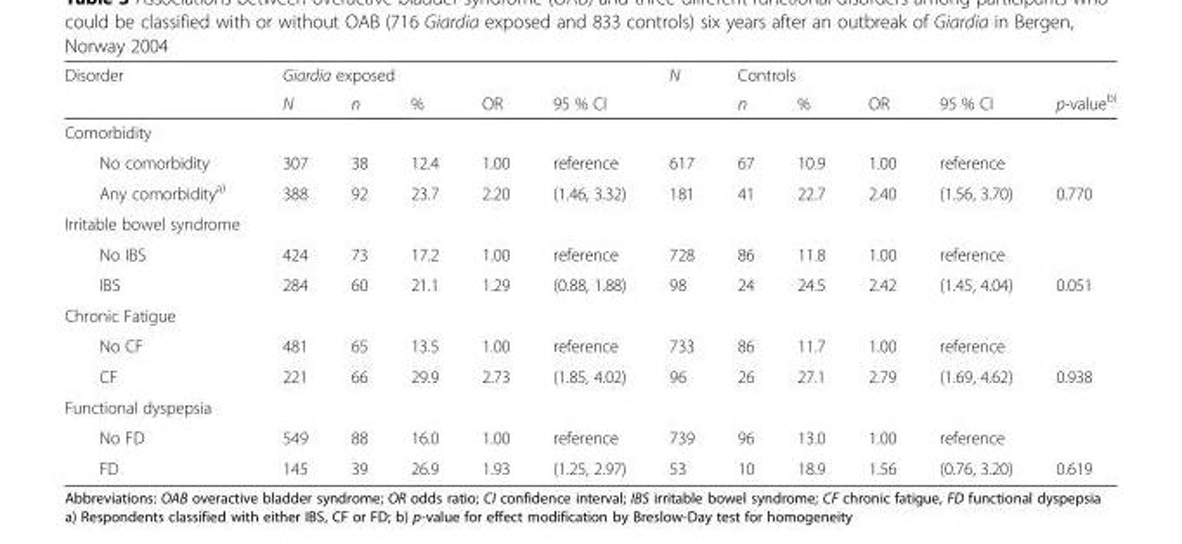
<table><thead><tr><td rowspan="2">Disorder</td><td colspan="5">Giardia exposed</td><td rowspan="2">N</td><td colspan="4">Controls</td><td rowspan="2">p-value<sup>b)</sup></td></tr><tr><td>N</td><td>n</td><td>%</td><td>OR</td><td>95 % CI</td><td>n</td><td>%</td><td>OR</td><td>95 % CI</td></tr></thead><tbody><tr><td colspan="12">Comorbidity</td></tr><tr><td>No comorbidity</td><td>307</td><td>38</td><td>12.4</td><td>1.00</td><td>reference</td><td>617</td><td>67</td><td>10.9</td><td>1.00</td><td>reference</td><td></td></tr><tr><td>Any comorbidity<sup>a)</sup></td><td>388</td><td>92</td><td>23.7</td><td>2.20</td><td>(1.46, 3.32)</td><td>181</td><td>41</td><td>22.7</td><td>2.40</td><td>(1.56, 3.70)</td><td>0.770</td></tr><tr><td colspan="12">Irritable bowel syndrome</td></tr><tr><td>No IBS</td><td>424</td><td>73</td><td>17.2</td><td>1.00</td><td>reference</td><td>728</td><td>86</td><td>11.8</td><td>1.00</td><td>reference</td><td></td></tr><tr><td>IBS</td><td>284</td><td>60</td><td>21.1</td><td>1.29</td><td>(0.88, 1.88)</td><td>98</td><td>24</td><td>24.5</td><td>2.42</td><td>(1.45, 4.04)</td><td>0.051</td></tr><tr><td colspan="12">Chronic Fatigue</td></tr><tr><td>No CF</td><td>481</td><td>65</td><td>13.5</td><td>1.00</td><td>reference</td><td>733</td><td>86</td><td>11.7</td><td>1.00</td><td>reference</td><td></td></tr><tr><td>CF</td><td>221</td><td>66</td><td>29.9</td><td>2.73</td><td>(1.85, 4.02)</td><td>96</td><td>26</td><td>27.1</td><td>2.79</td><td>(1.69, 4.62)</td><td>0.938</td></tr><tr><td colspan="12">Functional dyspepsia</td></tr><tr><td>No FD</td><td>549</td><td>88</td><td>16.0</td><td>1.00</td><td>reference</td><td>739</td><td>96</td><td>13.0</td><td>1.00</td><td>reference</td><td></td></tr><tr><td>FD</td><td>145</td><td>39</td><td>26.9</td><td>1.93</td><td>(1.25, 2.97)</td><td>53</td><td>10</td><td>18.9</td><td>1.56</td><td>(0.76, 3.20)</td><td>0.619</td></tr></tbody></table>